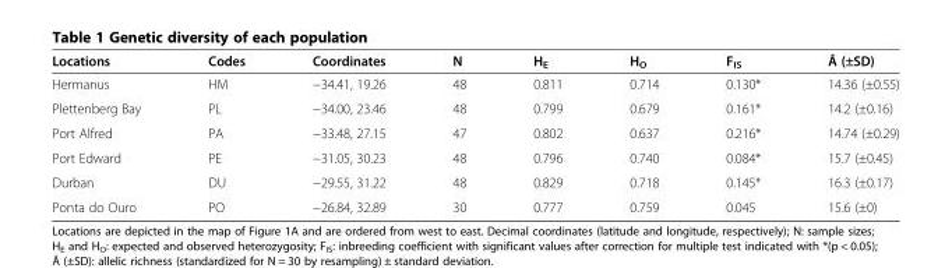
<table><thead><tr><td>Locations</td><td>Codes</td><td>Coordinates</td><td>N</td><td>H<sub>E</sub></td><td>H<sub>O</sub></td><td>F<sub>IS</sub></td><td>Â (±SD)</td></tr></thead><tbody><tr><td>Hermanus</td><td>HM</td><td>−34.41, 19.26</td><td>48</td><td>0.811</td><td>0.714</td><td>0.130*</td><td>14.36 (±0.55)</td></tr><tr><td>Plettenberg Bay</td><td>PL</td><td>−34.00, 23.46</td><td>48</td><td>0.799</td><td>0.679</td><td>0.161*</td><td>14.2 (±0.16)</td></tr><tr><td>Port Alfred</td><td>PA</td><td>−33.48, 27.15</td><td>47</td><td>0.802</td><td>0.637</td><td>0.216*</td><td>14.74 (±0.29)</td></tr><tr><td>Port Edward</td><td>PE</td><td>−31.05, 30.23</td><td>48</td><td>0.796</td><td>0.740</td><td>0.084*</td><td>15.7 (±0.45)</td></tr><tr><td>Durban</td><td>DU</td><td>−29.55, 31.22</td><td>48</td><td>0.829</td><td>0.718</td><td>0.145*</td><td>16.3 (±0.17)</td></tr><tr><td>Ponta do Ouro</td><td>PO</td><td>−26.84, 32.89</td><td>30</td><td>0.777</td><td>0.759</td><td>0.045</td><td>15.6 (±0)</td></tr></tbody></table>